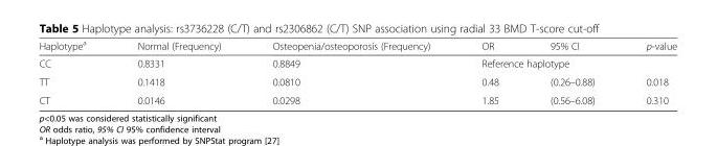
<table><thead><tr><td>Haplotype<sup>a</sup></td><td>Normal (Frequency)</td><td>Osteopenia/osteoporosis (Frequency)</td><td>OR</td><td>95% CI</td><td>p-value</td></tr></thead><tbody><tr><td>CC</td><td>0.8331</td><td>0.8849</td><td colspan="3">Reference haplotype</td></tr><tr><td>TT</td><td>0.1418</td><td>0.0810</td><td>0.48</td><td>(0.26–0.88)</td><td>0.018</td></tr><tr><td>CT</td><td>0.0146</td><td>0.0298</td><td>1.85</td><td>(0.56–6.08)</td><td>0.310</td></tr></tbody></table>